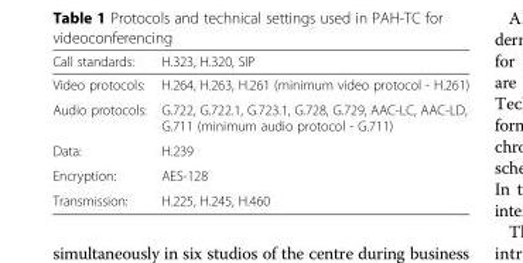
<table><thead><tr><td>Call standards:</td><td>H.323, H.320, SIP</td></tr></thead><tbody><tr><td>Video protocols:</td><td>H.264, H.263, H.261 (minimum video protocol - H.261)</td></tr><tr><td>Audio protocols:</td><td>G.722, G.722.1, G.723.1, G.728, G.729, AAC-LC, AAC-LD, G.711 (minimum audio protocol - G.711)</td></tr><tr><td>Data:</td><td>H.239</td></tr><tr><td>Encryption:</td><td>AES-128</td></tr><tr><td>Transmission:</td><td>H.225, H.245, H.460</td></tr></tbody></table>